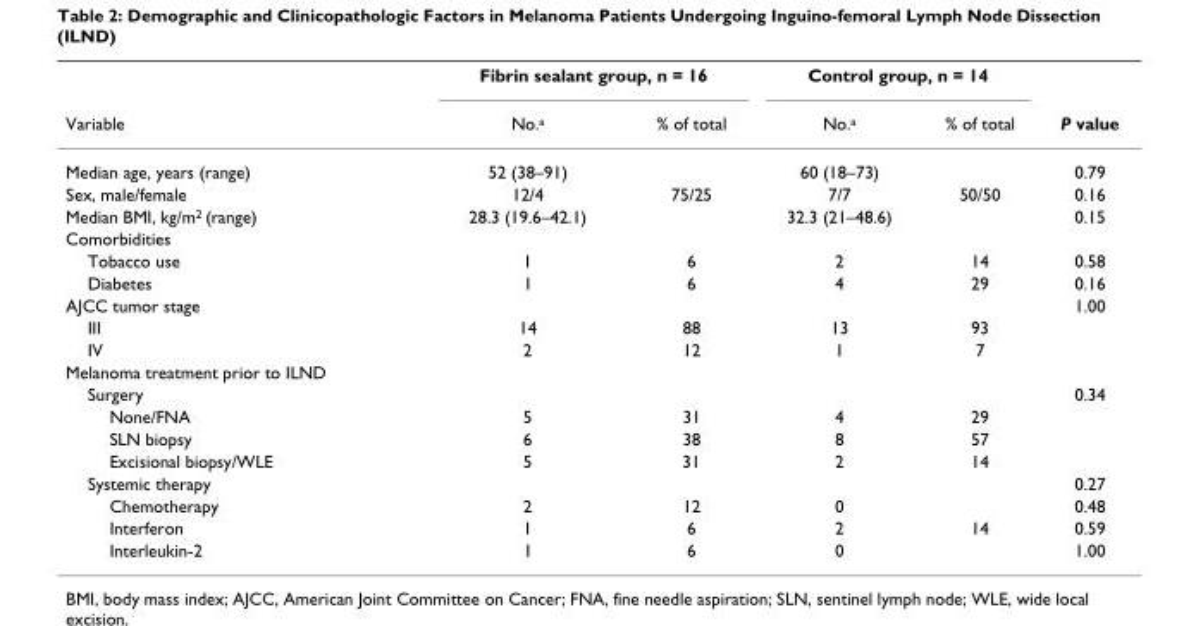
<table><thead><tr><td rowspan="2">Variable</td><td colspan="2">Fibrin sealant group, n = 16</td><td colspan="2">Control group, n = 14</td><td rowspan="2">P value</td></tr><tr><td>No.<sup>a</sup></td><td>% of total</td><td>No.<sup>a</sup></td><td>% of total</td></tr></thead><tbody><tr><td>Median age, years (range)</td><td>52 (38–91)</td><td></td><td>60 (18–73)</td><td></td><td>0.79</td></tr><tr><td>Sex, male/female</td><td>12/4</td><td>75/25</td><td>7/7</td><td>50/50</td><td>0.16</td></tr><tr><td>Median BMI, kg/m<sup>2</sup> (range)</td><td>28.3 (19.6–42.1)</td><td></td><td>32.3 (21–48.6)</td><td></td><td>0.15</td></tr><tr><td colspan="6">Comorbidities</td></tr><tr><td>Tobacco use</td><td>1</td><td>6</td><td>2</td><td>14</td><td>0.58</td></tr><tr><td>Diabetes</td><td>1</td><td>6</td><td>4</td><td>29</td><td>0.16</td></tr><tr><td>AJCC tumor stage</td><td></td><td></td><td></td><td></td><td>1.00</td></tr><tr><td>III</td><td>14</td><td>88</td><td>13</td><td>93</td><td></td></tr><tr><td>IV</td><td>2</td><td>12</td><td>1</td><td>7</td><td></td></tr><tr><td colspan="6">Melanoma treatment prior to ILND</td></tr><tr><td>Surgery</td><td></td><td></td><td></td><td></td><td>0.34</td></tr><tr><td>None/FNA</td><td>5</td><td>31</td><td>4</td><td>29</td><td></td></tr><tr><td>SLN biopsy</td><td>6</td><td>38</td><td>8</td><td>57</td><td></td></tr><tr><td>Excisional biopsy/WLE</td><td>5</td><td>31</td><td>2</td><td>14</td><td></td></tr><tr><td>Systemic therapy</td><td></td><td></td><td></td><td></td><td>0.27</td></tr><tr><td>Chemotherapy</td><td>2</td><td>12</td><td>0</td><td></td><td>0.48</td></tr><tr><td>Interferon</td><td>1</td><td>6</td><td>2</td><td>14</td><td>0.59</td></tr><tr><td>Interleukin-2</td><td>1</td><td>6</td><td>0</td><td></td><td>1.00</td></tr></tbody></table>